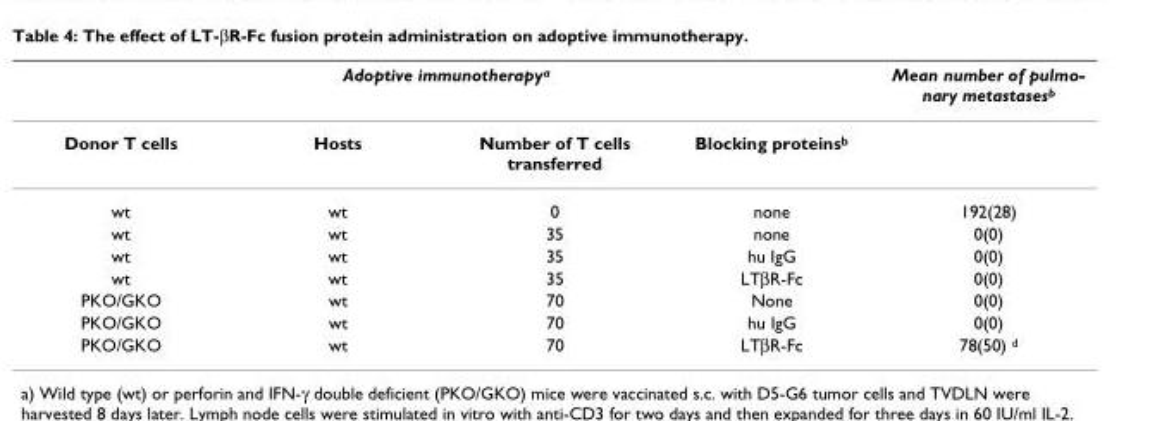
<table><thead><tr><td colspan="4">Adoptive immunotherapy<sup>a</sup></td><td rowspan="2">Mean number of pulmo- nary metastasesb</td></tr><tr><td>Donor T cells</td><td>Hosts</td><td>Number of T cells transferred</td><td>Blocking proteins<sup>b</sup></td></tr></thead><tbody><tr><td>wt</td><td>wt</td><td>0</td><td>none</td><td>192(28)</td></tr><tr><td>wt</td><td>wt</td><td>35</td><td>none</td><td>0(0)</td></tr><tr><td>wt</td><td>wt</td><td>35</td><td>hu IgG</td><td>0(0)</td></tr><tr><td>wt</td><td>wt</td><td>35</td><td>LTβR-Fc</td><td>0(0)</td></tr><tr><td>PKO/GKO</td><td>wt</td><td>70</td><td>None</td><td>0(0)</td></tr><tr><td>PKO/GKO</td><td>wt</td><td>70</td><td>hu IgG</td><td>0(0)</td></tr><tr><td>PKO/GKO</td><td>wt</td><td>70</td><td>LTβR-Fc</td><td>78(50) <sup>d</sup></td></tr></tbody></table>